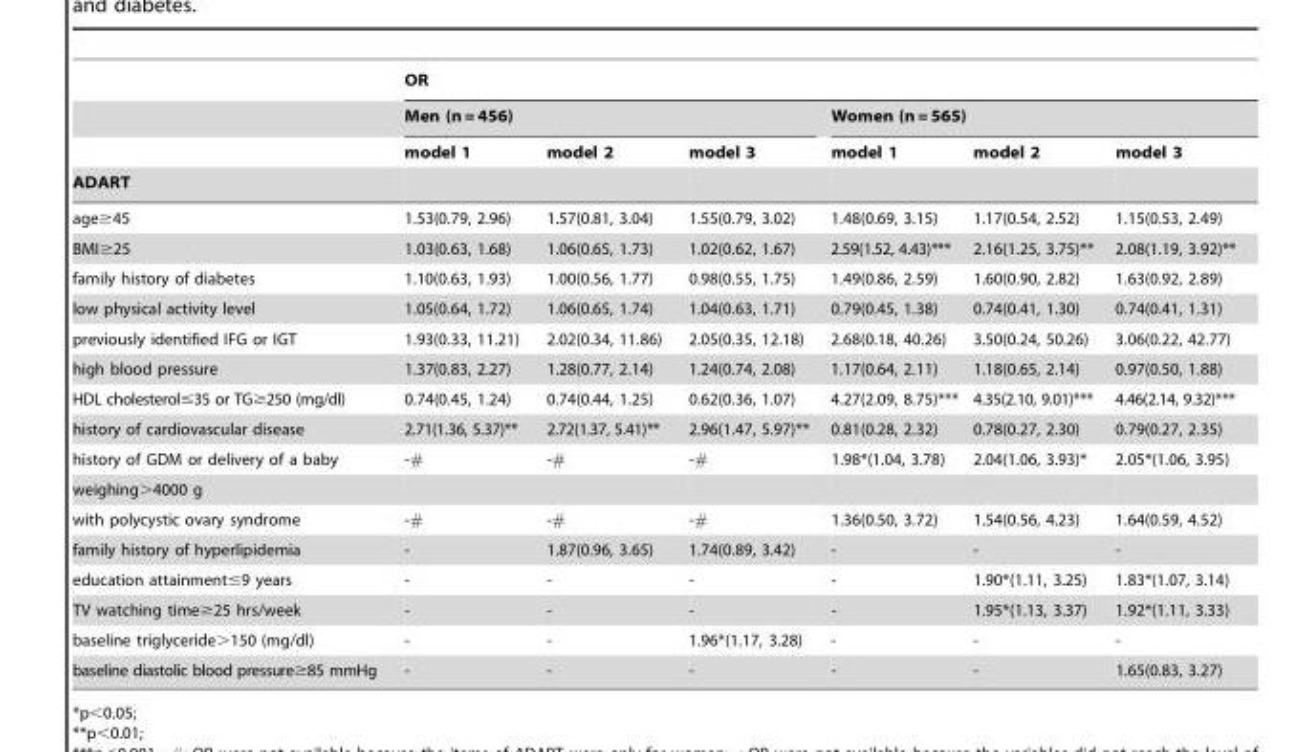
<table><thead><tr><td rowspan="4">ADART</td><td colspan="6">OR</td></tr><tr><td colspan="3">Men (n = 456)</td><td colspan="3">Women (n = 565)</td></tr><tr><td rowspan="2">model 1</td><td rowspan="2">model 2</td><td rowspan="2">model 3</td><td rowspan="2">model 1</td><td rowspan="2">model 2</td><td rowspan="2">model 3</td></tr><tr></tr></thead><tbody><tr><td>age≥45</td><td>1.53(0.79, 2.96)</td><td>1.57(0.81, 3.04)</td><td>1.55(0.79, 3.02)</td><td>1.48(0.69, 3.15)</td><td>1.17(0.54, 2.52)</td><td>1.15(0.53, 2.49)</td></tr><tr><td>BMI≥25</td><td>1.03(0.63, 1.68)</td><td>1.06(0.65, 1.73)</td><td>1.02(0.62, 1.67)</td><td>2.59(1.52, 4.43)***</td><td>2.16(1.25, 3.75)**</td><td>2.08(1.19, 3.92)**</td></tr><tr><td>family history of diabetes</td><td>1.10(0.63, 1.93)</td><td>1.00(0.56, 1.77)</td><td>0.98(0.55, 1.75)</td><td>1.49(0.86, 2.59)</td><td>1.60(0.90, 2.82)</td><td>1.63(0.92, 2.89)</td></tr><tr><td>low physical activity level</td><td>1.05(0.64, 1.72)</td><td>1.06(0.65, 1.74)</td><td>1.04(0.63, 1.71)</td><td>0.79(0.45, 1.38)</td><td>0.74(0.41, 1.30)</td><td>0.74(0.41, 1.31)</td></tr><tr><td>previously identified IFG or IGT</td><td>1.93(0.33, 11.21)</td><td>2.02(0.34, 11.86)</td><td>2.05(0.35, 12.18)</td><td>2.68(0.18, 40.26)</td><td>3.50(0.24, 50.26)</td><td>3.06(0.22, 42.77)</td></tr><tr><td>high blood pressure</td><td>1.37(0.83, 2.27)</td><td>1.28(0.77, 2.14)</td><td>1.24(0.74, 2.08)</td><td>1.17(0.64, 2.11)</td><td>1.18(0.65, 2.14)</td><td>0.97(0.50, 1.88)</td></tr><tr><td>HDL cholesterol≤35 or TG≥250 (mg/dl)</td><td>0.74(0.45, 1.24)</td><td>0.74(0.44, 1.25)</td><td>0.62(0.36, 1.07)</td><td>4.27(2.09, 8.75)***</td><td>4.35(2.10, 9.01)***</td><td>4.46(2.14, 9.32)***</td></tr><tr><td>history of cardiovascular disease</td><td>2.71(1.36, 5.37)**</td><td>2.72(1.37, 5.41)**</td><td>2.96(1.47, 5.97)**</td><td>0.81(0.28, 2.32)</td><td>0.78(0.27, 2.30)</td><td>0.79(0.27, 2.35)</td></tr><tr><td>history of GDM or delivery of a baby</td><td>-#</td><td>-#</td><td>-#</td><td>1.98*(1.04, 3.78)</td><td>2.04(1.06, 3.93)*</td><td>2.05*(1.06, 3.95)</td></tr><tr><td colspan="7">weighing&gt;4000 g</td></tr><tr><td>with polycystic ovary syndrome</td><td>-#</td><td>-#</td><td>-#</td><td>1.36(0.50, 3.72)</td><td>1.54(0.56, 4.23)</td><td>1.64(0.59, 4.52)</td></tr><tr><td>family history of hyperlipidemia</td><td>-</td><td>1.87(0.96, 3.65)</td><td>1.74(0.89, 3.42)</td><td>-</td><td>-</td><td>-</td></tr><tr><td>education attainment≤9 years</td><td>-</td><td>-</td><td>-</td><td>-</td><td>1.90*(1.11, 3.25)</td><td>1.83*(1.07, 3.14)</td></tr><tr><td>TV watching time≥25 hrs/week</td><td>-</td><td>-</td><td>-</td><td>-</td><td>1.95*(1.13, 3.37)</td><td>1.92*(1.11, 3.33)</td></tr><tr><td>baseline triglyceride&gt;150 (mg/dl)</td><td>-</td><td>-</td><td>1.96*(1.17, 3.28)</td><td>-</td><td>-</td><td>-</td></tr><tr><td>baseline diastolic blood pressure≥85 mmHg</td><td>-</td><td>-</td><td>-</td><td>-</td><td>-</td><td>1.65(0.83, 3.27)</td></tr></tbody></table>